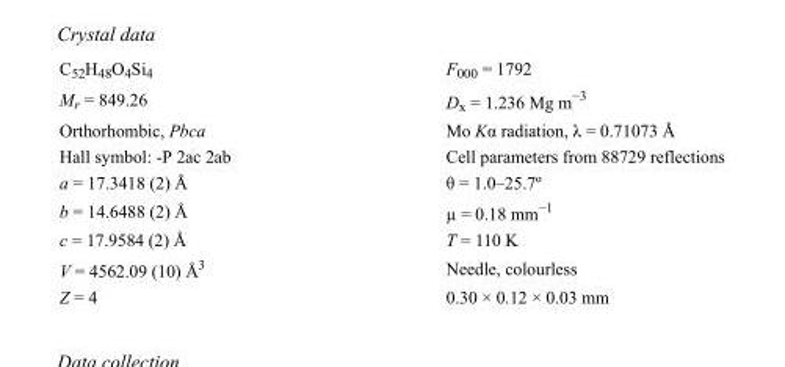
<table><tbody><tr><td>C<sub>52</sub>H<sub>48</sub>O<sub>4</sub>Si<sub>4</sub></td><td>F000 = 1792</td></tr><tr><td>M<sub>r</sub> = 849.26</td><td>D<sub>x</sub> = 1.236 Mg m<sup>−3</sup></td></tr><tr><td>Orthorhombic, Pbca</td><td>Mo Kα radiation, λ = 0.71073 Å</td></tr><tr><td>Hall symbol: -P 2ac 2ab</td><td>Cell parameters from 88729 reflections</td></tr><tr><td>a = 17.3418 (2) Å</td><td>θ = 1.0–25.7º</td></tr><tr><td>b = 14.6488 (2) Å</td><td>µ = 0.18 mm<sup>−1</sup></td></tr><tr><td>c = 17.9584 (2) Å</td><td>T = 110 K</td></tr><tr><td>V = 4562.09 (10) Å<sup>3</sup></td><td>Needle, colourless</td></tr><tr><td>Z = 4</td><td>0.30 × 0.12 × 0.03 mm</td></tr></tbody></table>